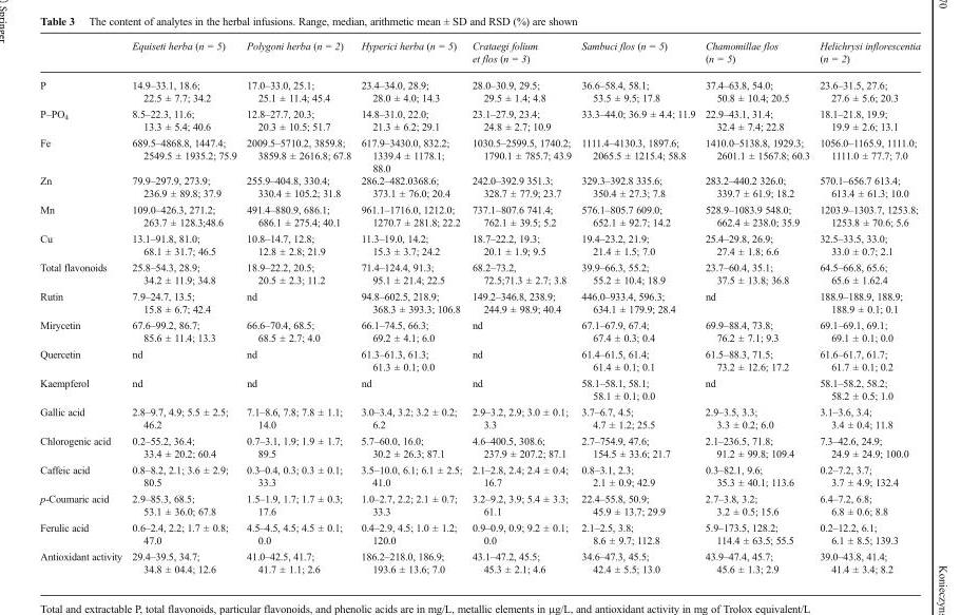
<table><thead><tr><td></td><td>Equiseti herba (n = 5)</td><td>Polygoni herba (n = 2)</td><td>Hyperici herba (n = 5)</td><td>Crataegi folium et flos (n = 3)</td><td>Sambuci flos (n = 5)</td><td>Chamomillae flos (n = 5)</td><td>Helichrysi inflorescentia (n = 2)</td></tr></thead><tbody><tr><td>P</td><td>14.9–33.1, 18.6; 22.5 ± 7.7; 34.2</td><td>17.0–33.0, 25.1; 25.1 ± 11.4; 45.4</td><td>23.4–34.0, 28.9; 28.0 ± 4.0; 14.3</td><td>28.0–30.9, 29.5; 29.5 ± 1.4; 4.8</td><td>36.6–58.4, 58.1; 53.5 ± 9.5; 17.8</td><td>37.4–63.8, 54.0; 50.8 ± 10.4; 20.5</td><td>23.6–31.5, 27.6; 27.6 ± 5.6; 20.3</td></tr><tr><td>P–PO<sub>4</sub></td><td>8.5–22.3, 11.6; 13.3 ± 5.4; 40.6</td><td>12.8–27.7, 20.3; 20.3 ± 10.5; 51.7</td><td>14.8–31.0, 22.0; 21.3 ± 6.2; 29.1</td><td>23.1–27.9, 23.4; 24.8 ± 2.7; 10.9</td><td>33.3–44.0; 36.9 ± 4.4; 11.9</td><td>22.9–43.1, 31.4; 32.4 ± 7.4; 22.8</td><td>18.1–21.8, 19.9; 19.9 ± 2.6; 13.1</td></tr><tr><td>Fe</td><td>689.5–4868.8, 1447.4; 2549.5 ± 1935.2; 75.9</td><td>2009.5–5710.2, 3859.8; 3859.8 ± 2616.8; 67.8</td><td>617.9–3430.0, 832.2; 1339.4 ± 1178.1; 88.0</td><td>1030.5–2599.5, 1740.2; 1790.1 ± 785.7; 43.9</td><td>1111.4–4130.3, 1897.6; 2065.5 ± 1215.4; 58.8</td><td>1410.0–5138.8, 1929.3; 2601.1 ± 1567.8; 60.3</td><td>1056.0–1165.9, 1111.0; 1111.0 ± 77.7; 7.0</td></tr><tr><td>Zn</td><td>79.9–297.9, 273.9; 236.9 ± 89.8; 37.9</td><td>255.9–404.8, 330.4; 330.4 ± 105.2; 31.8</td><td>286.2–482.0368.6; 373.1 ± 76.0; 20.4</td><td>242.0–392.9 351.3; 328.7 ± 77.9; 23.7</td><td>329.3–392.8 335.6; 350.4 ± 27.3; 7.8</td><td>283.2–440.2 326.0; 339.7 ± 61.9; 18.2</td><td>570.1–656.7 613.4; 613.4 ± 61.3; 10.0</td></tr><tr><td>Mn</td><td>109.0–426.3, 271.2; 263.7 ± 128.3;48.6</td><td>491.4–880.9, 686.1; 686.1 ± 275.4; 40.1</td><td>961.1–1716.0, 1212.0; 1270.7 ± 281.8; 22.2</td><td>737.1–807.6 741.4; 762.1 ± 39.5; 5.2</td><td>576.1–805.7 609.0; 652.1 ± 92.7; 14.2</td><td>528.9–1083.9 548.0; 662.4 ± 238.0; 35.9</td><td>1203.9–1303.7, 1253.8; 1253.8 ± 70.6; 5.6</td></tr><tr><td>Cu</td><td>13.1–91.8, 81.0; 68.1 ± 31.7; 46.5</td><td>10.8–14.7, 12.8; 12.8 ± 2.8; 21.9</td><td>11.3–19.0, 14.2; 15.3 ± 3.7; 24.2</td><td>18.7–22.2, 19.3; 20.1 ± 1.9; 9.5</td><td>19.4–23.2, 21.9; 21.4 ± 1.5; 7.0</td><td>25.4–29.8, 26.9; 27.4 ± 1.8; 6.6</td><td>32.5–33.5, 33.0; 33.0 ± 0.7; 2.1</td></tr><tr><td>Total flavonoids</td><td>25.8–54.3, 28.9; 34.2 ± 11.9; 34.8</td><td>18.9–22.2, 20.5; 20.5 ± 2.3; 11.2</td><td>71.4–124.4, 91.3; 95.1 ± 21.4; 22.5</td><td>68.2–73.2, 72.5;71.3 ± 2.7; 3.8</td><td>39.9–66.3, 55.2; 55.2 ± 10.4; 18.9</td><td>23.7–60.4, 35.1; 37.5 ± 13.8; 36.8</td><td>64.5–66.8, 65.6; 65.6 ± 1.62.4</td></tr><tr><td>Rutin</td><td>7.9–24.7, 13.5; 15.8 ± 6.7; 42.4</td><td>nd</td><td>94.8–602.5, 218.9; 368.3 ± 393.3; 106.8</td><td>149.2–346.8, 238.9; 244.9 ± 98.9; 40.4</td><td>446.0–933.4, 596.3; 634.1 ± 179.9; 28.4</td><td>nd</td><td>188.9–188.9, 188.9; 188.9 ± 0.1; 0.1</td></tr><tr><td>Mirycetin</td><td>67.6–99.2, 86.7; 85.6 ± 11.4; 13.3</td><td>66.6–70.4, 68.5; 68.5 ± 2.7; 4.0</td><td>66.1–74.5, 66.3; 69.2 ± 4.1; 6.0</td><td>nd</td><td>67.1–67.9, 67.4; 67.4 ± 0.3; 0.4</td><td>69.9–88.4, 73.8; 76.2 ± 7.1; 9.3</td><td>69.1–69.1, 69.1; 69.1 ± 0.1; 0.0</td></tr><tr><td>Quercetin</td><td>nd</td><td>nd</td><td>61.3–61.3, 61.3; 61.3 ± 0.1; 0.0</td><td>nd</td><td>61.4–61.5, 61.4; 61.4 ± 0.1; 0.1</td><td>61.5–88.3, 71.5; 73.2 ± 12.6; 17.2</td><td>61.6–61.7, 61.7; 61.7 ± 0.1; 0.2</td></tr><tr><td>Kaempferol</td><td>nd</td><td>nd</td><td>nd</td><td>nd</td><td>58.1–58.1, 58.1; 58.1 ± 0.1; 0.0</td><td>nd</td><td>58.1–58.2, 58.2; 58.2 ± 0.5; 1.0</td></tr><tr><td>Gallic acid</td><td>2.8–9.7, 4.9; 5.5 ± 2.5; 46.2</td><td>7.1–8.6, 7.8; 7.8 ± 1.1; 14.0</td><td>3.0–3.4, 3.2; 3.2 ± 0.2; 6.2</td><td>2.9–3.2, 2.9; 3.0 ± 0.1; 3.3</td><td>3.7–6.7, 4.5; 4.7 ± 1.2; 25.5</td><td>2.9–3.5, 3.3; 3.3 ± 0.2; 6.0</td><td>3.1–3.6, 3.4; 3.4 ± 0.4; 11.8</td></tr><tr><td>Chlorogenic acid</td><td>0.2–55.2, 36.4; 33.4 ± 20.2; 60.4</td><td>0.7–3.1, 1.9; 1.9 ± 1.7; 89.5</td><td>5.7–60.0, 16.0; 30.2 ± 26.3; 87.1</td><td>4.6–400.5, 308.6; 237.9 ± 207.2; 87.1</td><td>2.7–754.9, 47.6; 154.5 ± 33.6; 21.7</td><td>2.1–236.5, 71.8; 91.2 ± 99.8; 109.4</td><td>7.3–42.6, 24.9; 24.9 ± 24.9; 100.0</td></tr><tr><td>Caffeic acid</td><td>0.8–8.2, 2.1; 3.6 ± 2.9; 80.5</td><td>0.3–0.4, 0.3; 0.3 ± 0.1; 33.3</td><td>3.5–10.0, 6.1; 6.1 ± 2.5; 41.0</td><td>2.1–2.8, 2.4; 2.4 ± 0.4; 16.7</td><td>0.8–3.1, 2.3; 2.1 ± 0.9; 42.9</td><td>0.3–82.1, 9.6; 35.3 ± 40.1; 113.6</td><td>0.2–7.2, 3.7; 3.7 ± 4.9; 132.4</td></tr><tr><td>p-Coumaric acid</td><td>2.9–85.3, 68.5; 53.1 ± 36.0; 67.8</td><td>1.5–1.9, 1.7; 1.7 ± 0.3; 17.6</td><td>1.0–2.7, 2.2; 2.1 ± 0.7; 33.3</td><td>3.2–9.2, 3.9; 5.4 ± 3.3; 61.1</td><td>22.4–55.8, 50.9; 45.9 ± 13.7; 29.9</td><td>2.7–3.8, 3.2; 3.2 ± 0.5; 15.6</td><td>6.4–7.2, 6.8; 6.8 ± 0.6; 8.8</td></tr><tr><td>Ferulic acid</td><td>0.6–2.4, 2.2; 1.7 ± 0.8; 47.0</td><td>4.5–4.5, 4.5; 4.5 ± 0.1; 0.0</td><td>0.4–2.9, 4.5; 1.0 ± 1.2; 120.0</td><td>0.9–0.9, 0.9; 9.2 ± 0.1; 0.0</td><td>2.1–2.5, 3.8; 8.6 ± 9.7; 112.8</td><td>5.9–173.5, 128.2; 114.4 ± 63.5; 55.5</td><td>0.2–12.2, 6.1; 6.1 ± 8.5; 139.3</td></tr><tr><td>Antioxidant activity</td><td>29.4–39.5, 34.7; 34.8 ± 04.4; 12.6</td><td>41.0–42.5, 41.7; 41.7 ± 1.1; 2.6</td><td>186.2–218.0, 186.9; 193.6 ± 13.6; 7.0</td><td>43.1–47.2, 45.5; 45.3 ± 2.1; 4.6</td><td>34.6–47.3, 45.5; 42.4 ± 5.5; 13.0</td><td>43.9–47.4, 45.7; 45.6 ± 1.3; 2.9</td><td>39.0–43.8, 41.4; 41.4 ± 3.4; 8.2</td></tr></tbody></table>